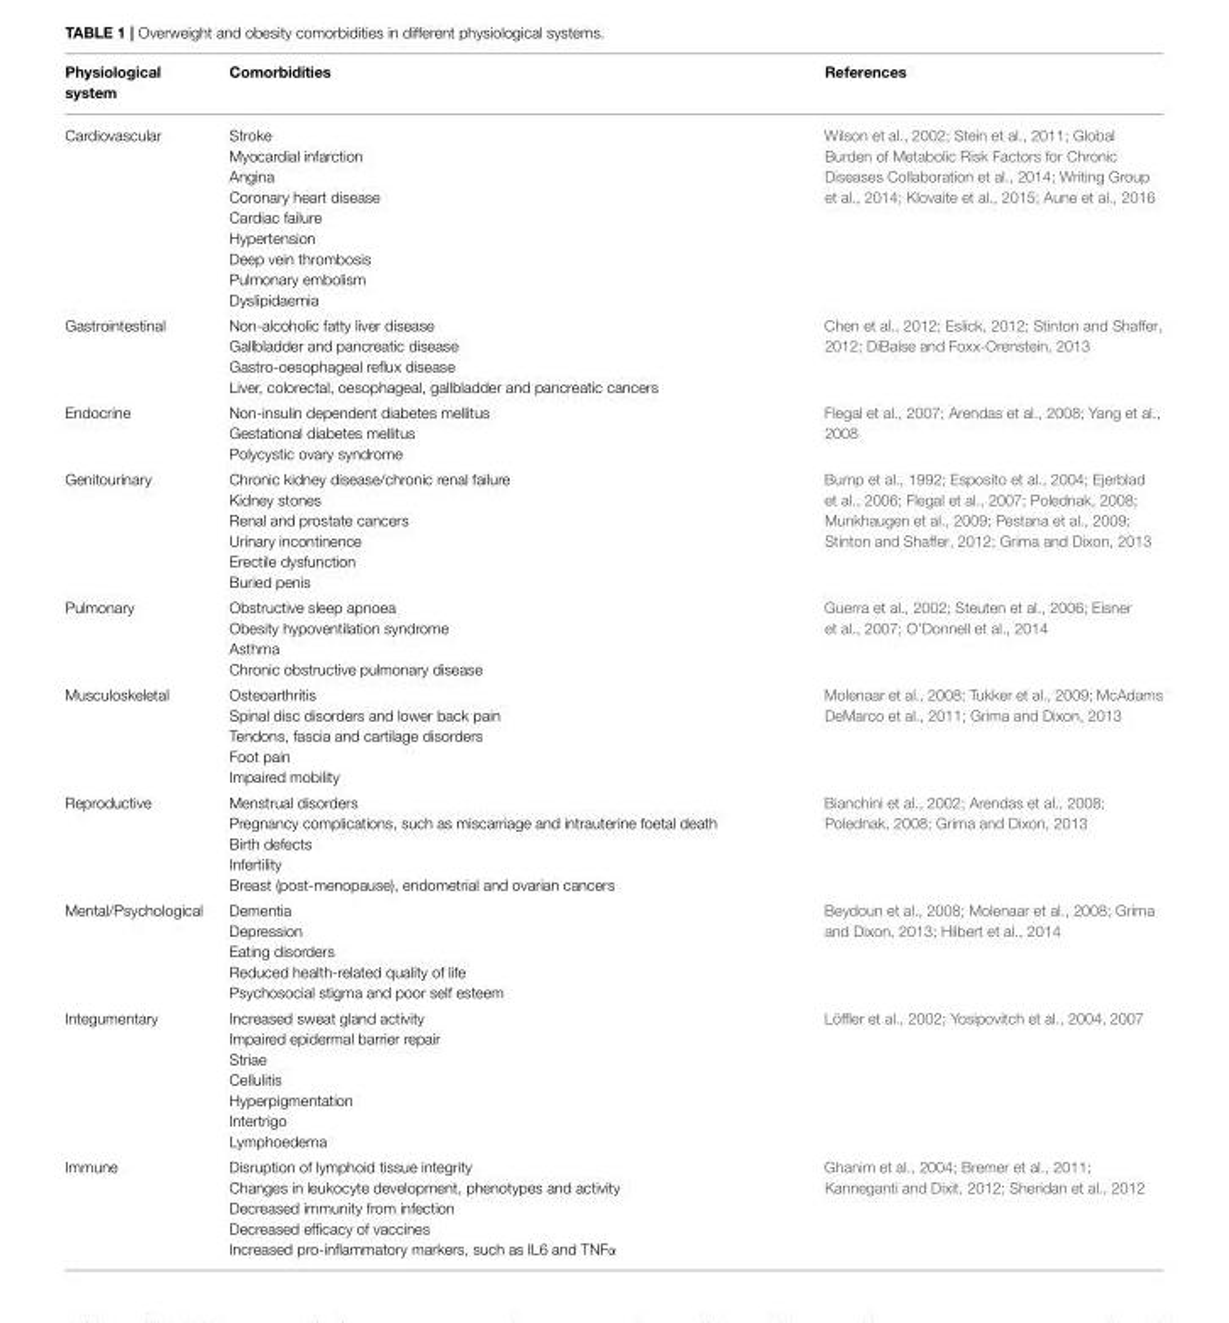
<table><thead><tr><td>Physiological system</td><td>Comorbidities</td><td>References</td></tr></thead><tbody><tr><td>Cardiovascular</td><td>Stroke Myocardial infarction Angina Coronary heart disease Cardiac failure Hypertension Deep vein thrombosis Pulmonary embolism Dyslipidaemia</td><td>Wilson et al., 2002; Stein et al., 2011; Global Burden of Metabolic Risk Factors for Chronic Diseases Collaboration et al., 2014; Writing Group et al., 2014; Klovaite et al., 2015; Aune et al., 2016</td></tr><tr><td>Gastrointestinal</td><td>Non-alcoholic fatty liver disease Gallbladder and pancreatic disease Gastro-oesophageal reflux disease Liver, colorectal, oesophageal, gallbladder and pancreatic cancers</td><td>Chen et al., 2012; Eslick, 2012; Stinton and Shaffer, 2012; DiBaise and Foxx-Orenstein, 2013</td></tr><tr><td>Endocrine</td><td>Non-insulin dependent diabetes mellitus Gestational diabetes mellitus Polycystic ovary syndrome</td><td>Flegal et al., 2007; Arendas et al., 2008; Yang et al., 2008</td></tr><tr><td>Genitourinary</td><td>Chronic kidney disease/chronic renal failure Kidney stones Renal and prostate cancers Urinary incontinence Erectile dysfunction Buried penis</td><td>Bump et al., 1992; Esposito et al., 2004; Ejerblad et al., 2006; Flegal et al., 2007; Polednak, 2008; Munkhaugen et al., 2009; Pestana et al., 2009; Stinton and Shaffer, 2012; Grima and Dixon, 2013</td></tr><tr><td>Pulmonary</td><td>Obstructive sleep apnoea Obesity hypoventilation syndrome Asthma Chronic obstructive pulmonary disease</td><td>Guerra et al., 2002; Steuten et al., 2006; Eisner et al., 2007; O’Donnell et al., 2014</td></tr><tr><td>Musculoskeletal</td><td>Osteoarthritis Spinal disc disorders and lower back pain Tendons, fascia and cartilage disorders Foot pain Impaired mobility</td><td>Molenaar et al., 2008; Tukker et al., 2009; McAdams DeMarco et al., 2011; Grima and Dixon, 2013</td></tr><tr><td>Reproductive</td><td>Menstrual disorders Pregnancy complications, such as miscarriage and intrauterine foetal death Birth defects Infertility Breast (post-menopause), endometrial and ovarian cancers</td><td>Bianchini et al., 2002; Arendas et al., 2008; Polednak, 2008; Grima and Dixon, 2013</td></tr><tr><td>Mental/Psychological</td><td>Dementia Depression Eating disorders Reduced health-related quality of life Psychosocial stigma and poor self esteem</td><td>Beydoun et al., 2008; Molenaar et al., 2008; Grima and Dixon, 2013; Hilbert et al., 2014</td></tr><tr><td>Integumentary</td><td>Increased sweat gland activity Impaired epidermal barrier repair Striae Cellulitis Hyperpigmentation Intertrigo Lymphoedema</td><td>Löffler et al., 2002; Yosipovitch et al., 2004, 2007</td></tr><tr><td>Immune</td><td>Disruption of lymphoid tissue integrity Changes in leukocyte development, phenotypes and activity Decreased immunity from infection Decreased efficacy of vaccines Increased pro-inflammatory markers, such as IL6 and TNFα</td><td>Ghanim et al., 2004; Bremer et al., 2011; Kanneganti and Dixit, 2012; Sheridan et al., 2012</td></tr></tbody></table>